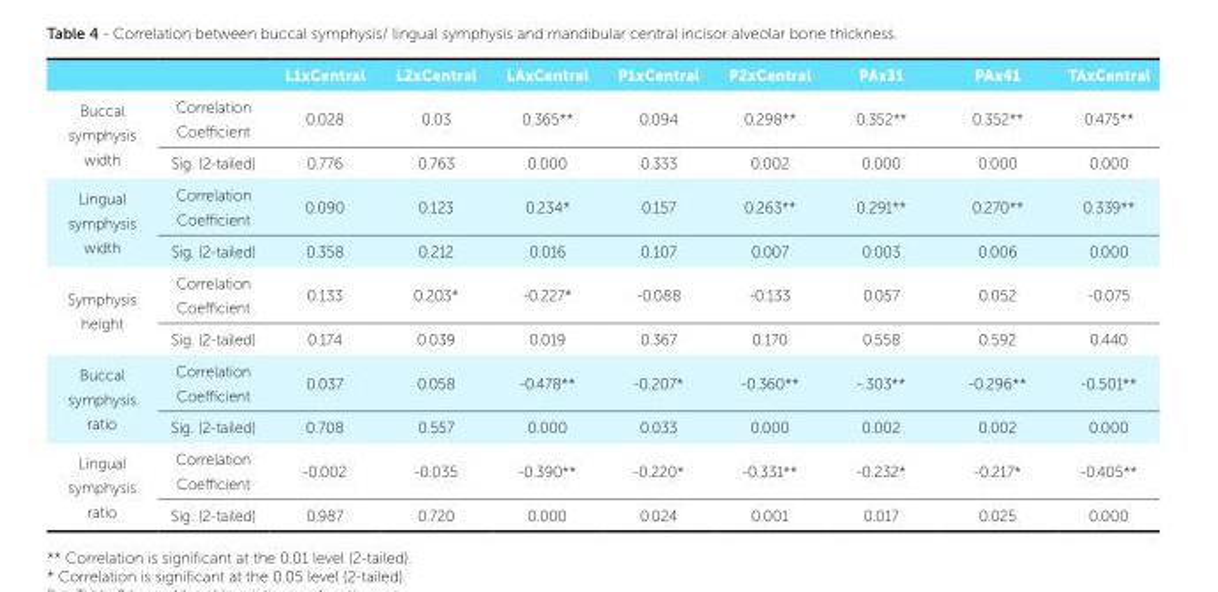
<table><thead><tr><td></td><td></td><td>L1xCentral</td><td>L2xCentral</td><td>LAxCentral</td><td>P1xCentral</td><td>P2xCentral</td><td>PAx31</td><td>PAx41</td><td>TAxCentral</td></tr></thead><tbody><tr><td rowspan="2">Buccal symphysis width</td><td>Correlation Coefficient</td><td>0.028</td><td>0.03</td><td>0.365**</td><td>0.094</td><td>0.298**</td><td>0.352**</td><td>0.352**</td><td>0.475**</td></tr><tr><td>Sig. (2-tailed)</td><td>0.776</td><td>0.763</td><td>0.000</td><td>0.333</td><td>0.002</td><td>0.000</td><td>0.000</td><td>0.000</td></tr><tr><td rowspan="2">Lingual symphysis width</td><td>Correlation Coefficient</td><td>0.090</td><td>0.123</td><td>0.234*</td><td>0.157</td><td>0.263**</td><td>0.291**</td><td>0.270**</td><td>0.339**</td></tr><tr><td>Sig. (2-tailed)</td><td>0.358</td><td>0.212</td><td>0.016</td><td>0.107</td><td>0.007</td><td>0.003</td><td>0.006</td><td>0.000</td></tr><tr><td rowspan="2">Symphysis height</td><td>Correlation Coefficient</td><td>0.133</td><td>0.203*</td><td>-0.227*</td><td>-0.088</td><td>-0.133</td><td>0.057</td><td>0.052</td><td>-0.075</td></tr><tr><td>Sig. (2-tailed)</td><td>0.174</td><td>0.039</td><td>0.019</td><td>0.367</td><td>0.170</td><td>0.558</td><td>0.592</td><td>0.440</td></tr><tr><td rowspan="2">Buccal symphysis ratio</td><td>Correlation Coefficient</td><td>0.037</td><td>0.058</td><td>-0.478**</td><td>-0.207*</td><td>-0.360**</td><td>-.303**</td><td>-0.296**</td><td>-0.501**</td></tr><tr><td>Sig. (2-tailed)</td><td>0.708</td><td>0.557</td><td>0.000</td><td>0.033</td><td>0.000</td><td>0.002</td><td>0.002</td><td>0.000</td></tr><tr><td rowspan="2">Lingual symphysis ratio</td><td>Correlation Coefficient</td><td>-0.002</td><td>-0.035</td><td>-0.390**</td><td>-0.220*</td><td>-0.331**</td><td>-0.232*</td><td>-0.217*</td><td>-0.405**</td></tr><tr><td>Sig. (2-tailed)</td><td>0.987</td><td>0.720</td><td>0.000</td><td>0.024</td><td>0.001</td><td>0.017</td><td>0.025</td><td>0.000</td></tr></tbody></table>